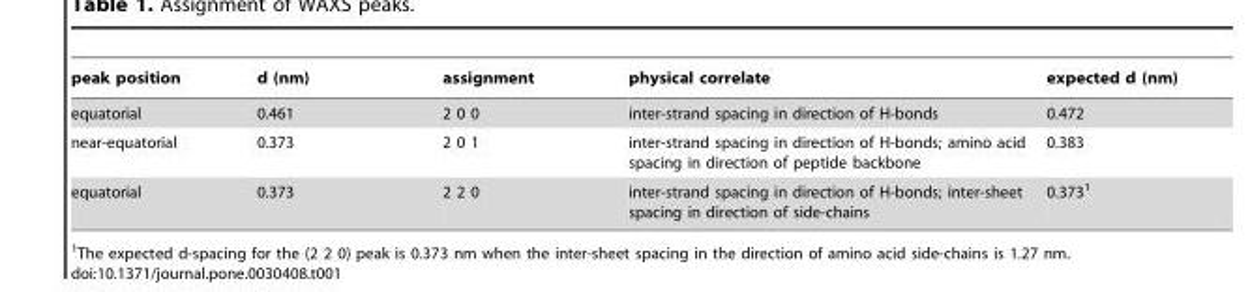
<table><thead><tr><td>peak position</td><td>d (nm)</td><td>assignment</td><td>physical correlate</td><td>expected d (nm)</td></tr></thead><tbody><tr><td>equatorial</td><td>0.461</td><td>2 0 0</td><td>inter-strand spacing in direction of H-bonds</td><td>0.472</td></tr><tr><td>near-equatorial</td><td>0.373</td><td>2 0 1</td><td>inter-strand spacing in direction of H-bonds; amino acid spacing in direction of peptide backbone</td><td>0.383</td></tr><tr><td>equatorial</td><td>0.373</td><td>2 2 0</td><td>inter-strand spacing in direction of H-bonds; inter-sheet spacing in direction of side-chains</td><td>0.373<sup>1</sup></td></tr></tbody></table>